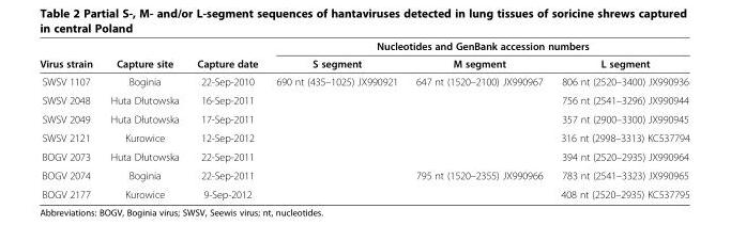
<table><thead><tr><td rowspan="2">Virus strain</td><td rowspan="2">Capture site</td><td rowspan="2">Capture date</td><td colspan="3">Nucleotides and GenBank accession numbers</td></tr><tr><td>S segment</td><td>M segment</td><td>L segment</td></tr></thead><tbody><tr><td>SWSV 1107</td><td>Boginia</td><td>22-Sep-2010</td><td>690 nt (435–1025) JX990921</td><td>647 nt (1520–2100) JX990967</td><td>806 nt (2520–3400) JX990936</td></tr><tr><td>SWSV 2048</td><td>Huta Dłutowska</td><td>16-Sep-2011</td><td></td><td></td><td>756 nt (2541–3296) JX990944</td></tr><tr><td>SWSV 2049</td><td>Huta Dłutowska</td><td>17-Sep-2011</td><td></td><td></td><td>357 nt (2900–3300) JX990945</td></tr><tr><td>SWSV 2121</td><td>Kurowice</td><td>12-Sep-2012</td><td></td><td></td><td>316 nt (2998–3313) KC537794</td></tr><tr><td>BOGV 2073</td><td>Huta Dłutowska</td><td>22-Sep-2011</td><td></td><td></td><td>394 nt (2520–2935) JX990964</td></tr><tr><td>BOGV 2074</td><td>Boginia</td><td>22-Sep-2011</td><td></td><td>795 nt (1520–2355) JX990966</td><td>783 nt (2541–3323) JX990965</td></tr><tr><td>BOGV 2177</td><td>Kurowice</td><td>9-Sep-2012</td><td></td><td></td><td>408 nt (2520–2935) KC537795</td></tr></tbody></table>